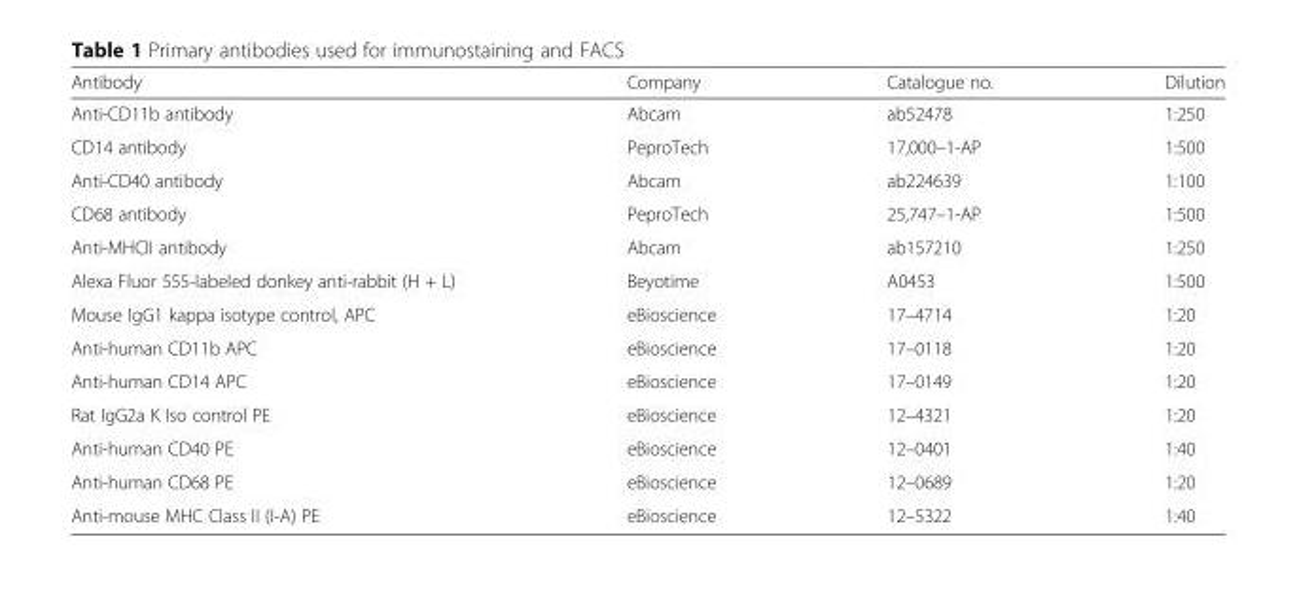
<table><thead><tr><td>Antibody</td><td>Company</td><td>Catalogue no.</td><td>Dilution</td></tr></thead><tbody><tr><td>Anti-CD11b antibody</td><td>Abcam</td><td>ab52478</td><td>1:250</td></tr><tr><td>CD14 antibody</td><td>PeproTech</td><td>17,000–1-AP</td><td>1:500</td></tr><tr><td>Anti-CD40 antibody</td><td>Abcam</td><td>ab224639</td><td>1:100</td></tr><tr><td>CD68 antibody</td><td>PeproTech</td><td>25,747–1-AP</td><td>1:500</td></tr><tr><td>Anti-MHCII antibody</td><td>Abcam</td><td>ab157210</td><td>1:250</td></tr><tr><td>Alexa Fluor 555-labeled donkey anti-rabbit (H + L)</td><td>Beyotime</td><td>A0453</td><td>1:500</td></tr><tr><td>Mouse IgG1 kappa isotype control, APC</td><td>eBioscience</td><td>17–4714</td><td>1:20</td></tr><tr><td>Anti-human CD11b APC</td><td>eBioscience</td><td>17–0118</td><td>1:20</td></tr><tr><td>Anti-human CD14 APC</td><td>eBioscience</td><td>17–0149</td><td>1:20</td></tr><tr><td>Rat IgG2a K Iso control PE</td><td>eBioscience</td><td>12–4321</td><td>1:20</td></tr><tr><td>Anti-human CD40 PE</td><td>eBioscience</td><td>12–0401</td><td>1:40</td></tr><tr><td>Anti-human CD68 PE</td><td>eBioscience</td><td>12–0689</td><td>1:20</td></tr><tr><td>Anti-mouse MHC Class II (I-A) PE</td><td>eBioscience</td><td>12–5322</td><td>1:40</td></tr></tbody></table>